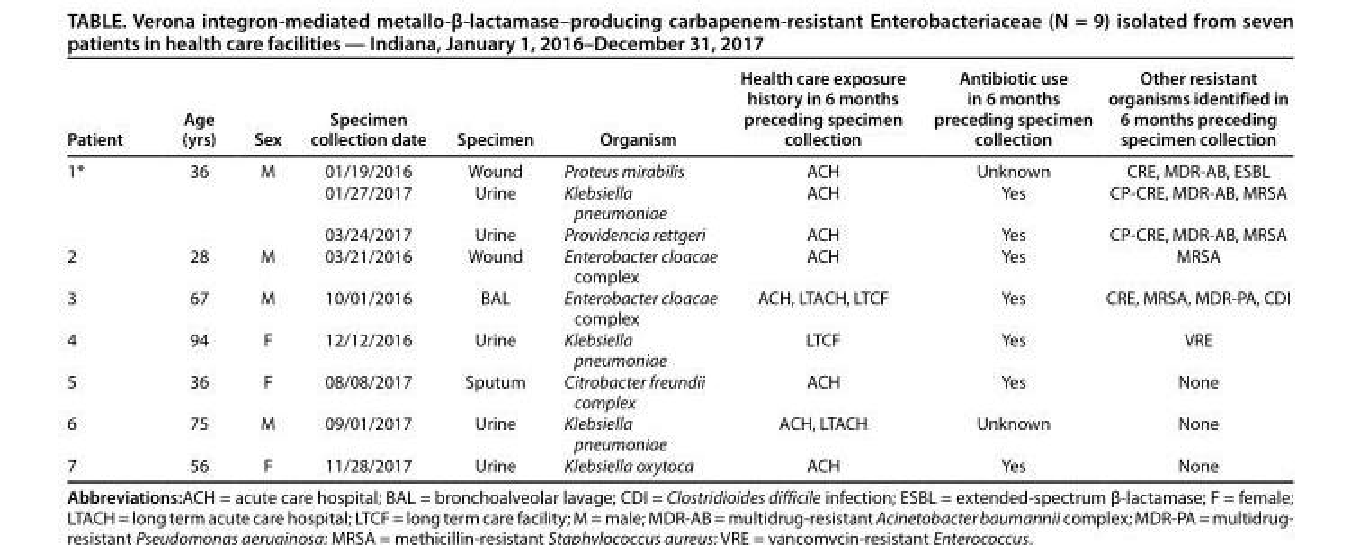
<table><thead><tr><td>Patient</td><td>Age (yrs)</td><td>Sex</td><td>Specimen collection date</td><td>Specimen</td><td>Organism</td><td>Health care exposure history in 6 months preceding specimen collection</td><td>Antibiotic use in 6 months preceding specimen collection</td><td>Other resistant organisms identified in 6 months preceding specimen collection</td></tr></thead><tbody><tr><td rowspan="3">1*</td><td rowspan="3">36</td><td rowspan="3">M</td><td>01/19/2016</td><td>Wound</td><td>Proteus mirabilis</td><td>ACH</td><td>Unknown</td><td>CRE, MDR-AB, ESBL</td></tr><tr><td>01/27/2017</td><td>Urine</td><td>Klebsiella pneumoniae</td><td>ACH</td><td>Yes</td><td>CP-CRE, MDR-AB, MRSA</td></tr><tr><td>03/24/2017</td><td>Urine</td><td>Providencia rettgeri</td><td>ACH</td><td>Yes</td><td>CP-CRE, MDR-AB, MRSA</td></tr><tr><td>2</td><td>28</td><td>M</td><td>03/21/2016</td><td>Wound</td><td>Enterobacter cloacae complex</td><td>ACH</td><td>Yes</td><td>MRSA</td></tr><tr><td>3</td><td>67</td><td>M</td><td>10/01/2016</td><td>BAL</td><td>Enterobacter cloacae complex</td><td>ACH, LTACH, LTCF</td><td>Yes</td><td>CRE, MRSA, MDR-PA, CDI</td></tr><tr><td>4</td><td>94</td><td>F</td><td>12/12/2016</td><td>Urine</td><td>Klebsiella pneumoniae</td><td>LTCF</td><td>Yes</td><td>VRE</td></tr><tr><td>5</td><td>36</td><td>F</td><td>08/08/2017</td><td>Sputum</td><td>Citrobacter freundii complex</td><td>ACH</td><td>Yes</td><td>None</td></tr><tr><td>6</td><td>75</td><td>M</td><td>09/01/2017</td><td>Urine</td><td>Klebsiella pneumoniae</td><td>ACH, LTACH</td><td>Unknown</td><td>None</td></tr><tr><td>7</td><td>56</td><td>F</td><td>11/28/2017</td><td>Urine</td><td>Klebsiella oxytoca</td><td>ACH</td><td>Yes</td><td>None</td></tr></tbody></table>